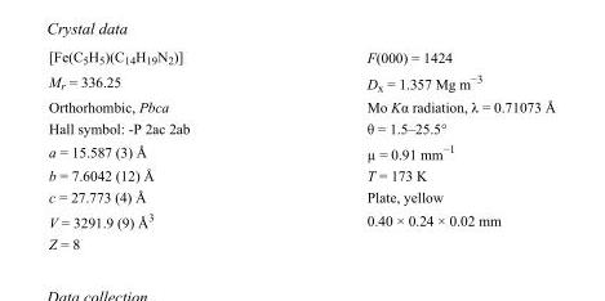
<table><tbody><tr><td>[Fe(C<sub>5</sub>H<sub>5</sub>)(C<sub>14</sub>H<sub>19</sub>N<sub>2</sub>)]</td><td>F(000) = 1424</td></tr><tr><td>M<sub>r</sub> = 336.25</td><td>D<sub>x</sub> = 1.357 Mg m<sup>−3</sup></td></tr><tr><td>Orthorhombic, Pbca</td><td>Mo Kα radiation, λ = 0.71073 Å</td></tr><tr><td>Hall symbol: -P 2ac 2ab</td><td>θ = 1.5–25.5°</td></tr><tr><td>a = 15.587 (3) Å</td><td>µ = 0.91 mm<sup>−1</sup></td></tr><tr><td>b = 7.6042 (12) Å</td><td>T = 173 K</td></tr><tr><td>c = 27.773 (4) Å</td><td>Plate, yellow</td></tr><tr><td>V = 3291.9 (9) Å<sup>3</sup></td><td>0.40 × 0.24 × 0.02 mm</td></tr><tr><td>Z = 8</td><td></td></tr></tbody></table>